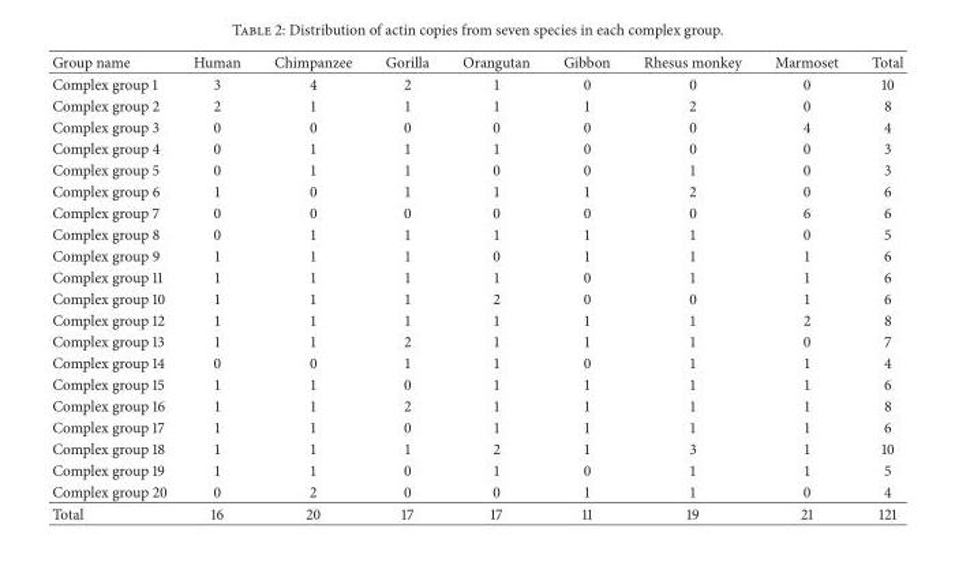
<table><thead><tr><td>Group name</td><td>Human</td><td>Chimpanzee</td><td>Gorilla</td><td>Orangutan</td><td>Gibbon</td><td>Rhesus monkey</td><td>Marmoset</td><td>Total</td></tr></thead><tbody><tr><td>Complex group 1</td><td>3</td><td>4</td><td>2</td><td>1</td><td>0</td><td>0</td><td>0</td><td>10</td></tr><tr><td>Complex group 2</td><td>2</td><td>1</td><td>1</td><td>1</td><td>1</td><td>2</td><td>0</td><td>8</td></tr><tr><td>Complex group 3</td><td>0</td><td>0</td><td>0</td><td>0</td><td>0</td><td>0</td><td>4</td><td>4</td></tr><tr><td>Complex group 4</td><td>0</td><td>1</td><td>1</td><td>1</td><td>0</td><td>0</td><td>0</td><td>3</td></tr><tr><td>Complex group 5</td><td>0</td><td>1</td><td>1</td><td>0</td><td>0</td><td>1</td><td>0</td><td>3</td></tr><tr><td>Complex group 6</td><td>1</td><td>0</td><td>1</td><td>1</td><td>1</td><td>2</td><td>0</td><td>6</td></tr><tr><td>Complex group 7</td><td>0</td><td>0</td><td>0</td><td>0</td><td>0</td><td>0</td><td>6</td><td>6</td></tr><tr><td>Complex group 8</td><td>0</td><td>1</td><td>1</td><td>1</td><td>1</td><td>1</td><td>0</td><td>5</td></tr><tr><td>Complex group 9</td><td>1</td><td>1</td><td>1</td><td>0</td><td>1</td><td>1</td><td>1</td><td>6</td></tr><tr><td>Complex group 11</td><td>1</td><td>1</td><td>1</td><td>1</td><td>0</td><td>1</td><td>1</td><td>6</td></tr><tr><td>Complex group 10</td><td>1</td><td>1</td><td>1</td><td>2</td><td>0</td><td>0</td><td>1</td><td>6</td></tr><tr><td>Complex group 12</td><td>1</td><td>1</td><td>1</td><td>1</td><td>1</td><td>1</td><td>2</td><td>8</td></tr><tr><td>Complex group 13</td><td>1</td><td>1</td><td>2</td><td>1</td><td>1</td><td>1</td><td>0</td><td>7</td></tr><tr><td>Complex group 14</td><td>0</td><td>0</td><td>1</td><td>1</td><td>0</td><td>1</td><td>1</td><td>4</td></tr><tr><td>Complex group 15</td><td>1</td><td>1</td><td>0</td><td>1</td><td>1</td><td>1</td><td>1</td><td>6</td></tr><tr><td>Complex group 16</td><td>1</td><td>1</td><td>2</td><td>1</td><td>1</td><td>1</td><td>1</td><td>8</td></tr><tr><td>Complex group 17</td><td>1</td><td>1</td><td>0</td><td>1</td><td>1</td><td>1</td><td>1</td><td>6</td></tr><tr><td>Complex group 18</td><td>1</td><td>1</td><td>1</td><td>2</td><td>1</td><td>3</td><td>1</td><td>10</td></tr><tr><td>Complex group 19</td><td>1</td><td>1</td><td>0</td><td>1</td><td>0</td><td>1</td><td>1</td><td>5</td></tr><tr><td>Complex group 20</td><td>0</td><td>2</td><td>0</td><td>0</td><td>1</td><td>1</td><td>0</td><td>4</td></tr><tr><td>Total</td><td>16</td><td>20</td><td>17</td><td>17</td><td>11</td><td>19</td><td>21</td><td>121</td></tr></tbody></table>